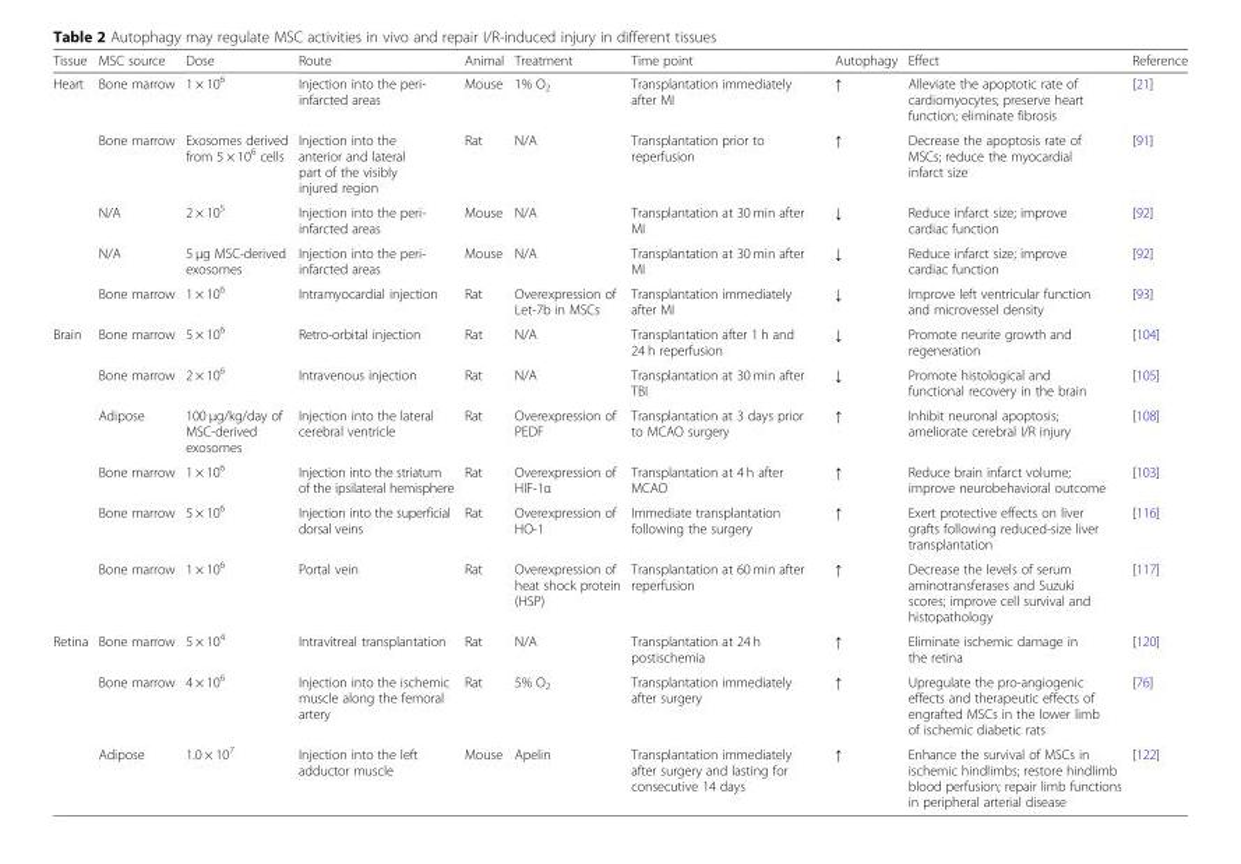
<table><thead><tr><td>Tissue</td><td>MSC source</td><td>Dose</td><td>Route</td><td>Animal</td><td>Treatment</td><td>Time point</td><td>Autophagy</td><td>Effect</td><td>Reference</td></tr></thead><tbody><tr><td rowspan="5">Heart</td><td>Bone marrow</td><td>1 × 10<sup>6</sup></td><td>Injection into the peri- infarcted areas</td><td>Mouse</td><td>1% O<sub>2</sub></td><td>Transplantation immediately after MI</td><td>↑</td><td>Alleviate the apoptotic rate of cardiomyocytes; preserve heart function; eliminate fibrosis</td><td>[21]</td></tr><tr><td>Bone marrow</td><td>Exosomes derived from 5 × 10<sup>6</sup> cells</td><td>Injection into the anterior and lateral part of the visibly injured region</td><td>Rat</td><td>N/A</td><td>Transplantation prior to reperfusion</td><td>↑</td><td>Decrease the apoptosis rate of MSCs; reduce the myocardial infarct size</td><td>[91]</td></tr><tr><td>N/A</td><td>2 × 10<sup>5</sup></td><td>Injection into the peri- infarcted areas</td><td>Mouse</td><td>N/A</td><td>Transplantation at 30 min after MI</td><td>↓</td><td>Reduce infarct size; improve cardiac function</td><td>[92]</td></tr><tr><td>N/A</td><td>5 μg MSC-derived exosomes</td><td>Injection into the peri- infarcted areas</td><td>Mouse</td><td>N/A</td><td>Transplantation at 30 min after MI</td><td>↓</td><td>Reduce infarct size; improve cardiac function</td><td>[92]</td></tr><tr><td>Bone marrow</td><td>1 × 10<sup>6</sup></td><td>Intramyocardial injection</td><td>Rat</td><td>Overexpression of Let-7b in MSCs</td><td>Transplantation immediately after MI</td><td>↓</td><td>Improve left ventricular function and microvessel density</td><td>[93]</td></tr><tr><td rowspan="6">Brain</td><td>Bone marrow</td><td>5 × 10<sup>6</sup></td><td>Retro-orbital injection</td><td>Rat</td><td>N/A</td><td>Transplantation after 1 h and 24 h reperfusion</td><td>↓</td><td>Promote neurite growth and regeneration</td><td>[104]</td></tr><tr><td>Bone marrow</td><td>2 × 10<sup>6</sup></td><td>Intravenous injection</td><td>Rat</td><td>N/A</td><td>Transplantation at 30 min after TBI</td><td>↓</td><td>Promote histological and functional recovery in the brain</td><td>[105]</td></tr><tr><td>Adipose</td><td>100 μg/kg/day of MSC-derived exosomes</td><td>Injection into the lateral cerebral ventricle</td><td>Rat</td><td>Overexpression of PEDF</td><td>Transplantation at 3 days prior to MCAO surgery</td><td>↑</td><td>Inhibit neuronal apoptosis; ameliorate cerebral I/R injury</td><td>[108]</td></tr><tr><td>Bone marrow</td><td>1 × 10<sup>6</sup></td><td>Injection into the striatum of the ipsilateral hemisphere</td><td>Rat</td><td>Overexpression of HIF-1α</td><td>Transplantation at 4 h after MCAO</td><td>↑</td><td>Reduce brain infarct volume; improve neurobehavioral outcome</td><td>[103]</td></tr><tr><td>Bone marrow</td><td>5 × 10<sup>6</sup></td><td>Injection into the superficial dorsal veins</td><td>Rat</td><td>Overexpression of HO-1</td><td>Immediate transplantation following the surgery</td><td>↑</td><td>Exert protective effects on liver grafts following reduced-size liver transplantation</td><td>[116]</td></tr><tr><td>Bone marrow</td><td>1 × 10<sup>6</sup></td><td>Portal vein</td><td>Rat</td><td>Overexpression of heat shock protein (HSP)</td><td>Transplantation at 60 min after reperfusion</td><td>↑</td><td>Decrease the levels of serum aminotransferases and Suzuki scores; improve cell survival and histopathology</td><td>[117]</td></tr><tr><td rowspan="3">Retina</td><td>Bone marrow</td><td>5 × 10<sup>4</sup></td><td>Intravitreal transplantation</td><td>Rat</td><td>N/A</td><td>Transplantation at 24 h postischemia</td><td>↑</td><td>Eliminate ischemic damage in the retina</td><td>[120]</td></tr><tr><td>Bone marrow</td><td>4 × 10<sup>6</sup></td><td>Injection into the ischemic muscle along the femoral artery</td><td>Rat</td><td>5% O<sub>2</sub></td><td>Transplantation immediately after surgery</td><td>↑</td><td>Upregulate the pro-angiogenic effects and therapeutic effects of engrafted MSCs in the lower limb of ischemic diabetic rats</td><td>[76]</td></tr><tr><td>Adipose</td><td>1.0 × 10<sup>7</sup></td><td>Injection into the left adductor muscle</td><td>Mouse</td><td>Apelin</td><td>Transplantation immediately after surgery and lasting for consecutive 14 days</td><td>↑</td><td>Enhance the survival of MSCs in ischemic hindlimbs; restore hindlimb blood perfusion; repair limb functions in peripheral arterial disease</td><td>[122]</td></tr></tbody></table>